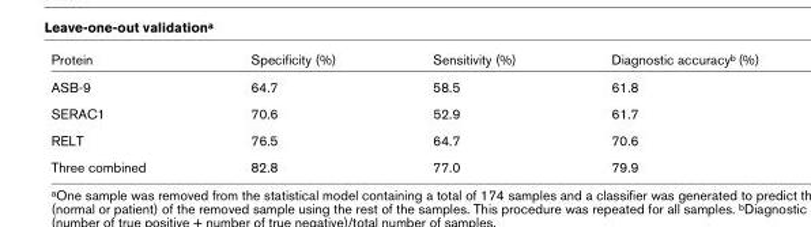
<table><thead><tr><td>Protein</td><td>Specificity (%)</td><td>Sensitivity (%)</td><td>Diagnostic accuracy<sup>b</sup> (%)</td></tr></thead><tbody><tr><td>ASB-9</td><td>64.7</td><td>58.5</td><td>61.8</td></tr><tr><td>SERAC1</td><td>70.6</td><td>52.9</td><td>61.7</td></tr><tr><td>RELT</td><td>76.5</td><td>64.7</td><td>70.6</td></tr><tr><td>Three combined</td><td>82.8</td><td>77.0</td><td>79.9</td></tr></tbody></table>